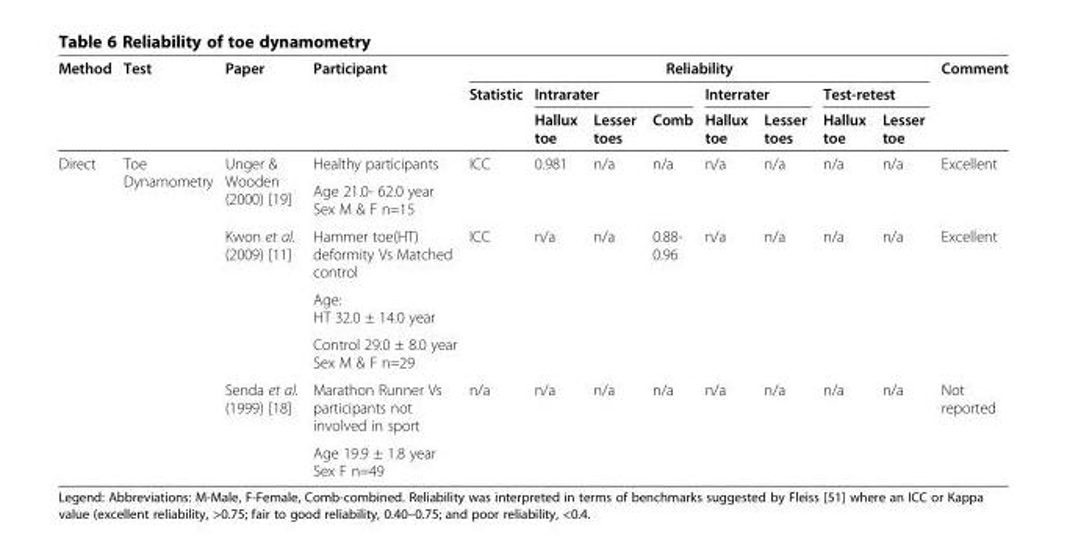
<table><thead><tr><td rowspan="3">Method</td><td rowspan="3">Test</td><td rowspan="3">Paper</td><td rowspan="3">Participant</td><td colspan="8">Reliability</td><td rowspan="3">Comment</td></tr><tr><td rowspan="2">Statistic</td><td colspan="3">Intrarater</td><td colspan="2">Interrater</td><td colspan="2">Test-retest</td></tr><tr><td>Hallux toe</td><td>Lesser toes</td><td>Comb</td><td>Hallux toe</td><td>Lesser toes</td><td>Hallux toe</td><td>Lesser toe</td></tr></thead><tbody><tr><td rowspan="7">Direct</td><td rowspan="2">Toe Dynamometry</td><td rowspan="2">Unger &amp; Wooden (2000) [19]</td><td>Healthy participants</td><td rowspan="2">ICC</td><td rowspan="2">0.981</td><td rowspan="2">n/a</td><td rowspan="2">n/a</td><td rowspan="2">n/a</td><td rowspan="2">n/a</td><td rowspan="2">n/a</td><td rowspan="2">n/a</td><td rowspan="2">Excellent</td></tr><tr><td>Age 21.0- 62.0 year Sex M &amp; F n=15</td></tr><tr><td rowspan="3"></td><td rowspan="3">Kwon et al. (2009) [11]</td><td>Hammer toe(HT) deformity Vs Matched control</td><td rowspan="3">ICC</td><td rowspan="3">n/a</td><td rowspan="3">n/a</td><td rowspan="3">0.88- 0.96</td><td rowspan="3">n/a</td><td rowspan="3">n/a</td><td rowspan="3">n/a</td><td rowspan="3">n/a</td><td rowspan="3">Excellent</td></tr><tr><td>Age: HT 32.0 ± 14.0 year</td></tr><tr><td>Control 29.0 ± 8.0 year Sex M &amp; F n=29</td></tr><tr><td></td><td>Senda et al. (1999) [18]</td><td>Marathon Runner Vs participants not involved in sport</td><td>n/a</td><td>n/a</td><td>n/a</td><td>n/a</td><td>n/a</td><td>n/a</td><td>n/a</td><td>n/a</td><td>Not reported</td></tr><tr><td></td><td></td><td>Age 19.9 ± 1.8 year Sex F n=49</td><td></td><td></td><td></td><td></td><td></td><td></td><td></td><td></td><td></td></tr></tbody></table>